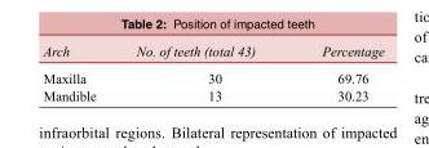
<table><tbody><tr><td>Arch</td><td>No. of teeth (total 43)</td><td>Percentage</td></tr><tr><td>Maxilla</td><td>30</td><td>69.76</td></tr><tr><td>Mandible</td><td>13</td><td>30.23</td></tr></tbody></table>